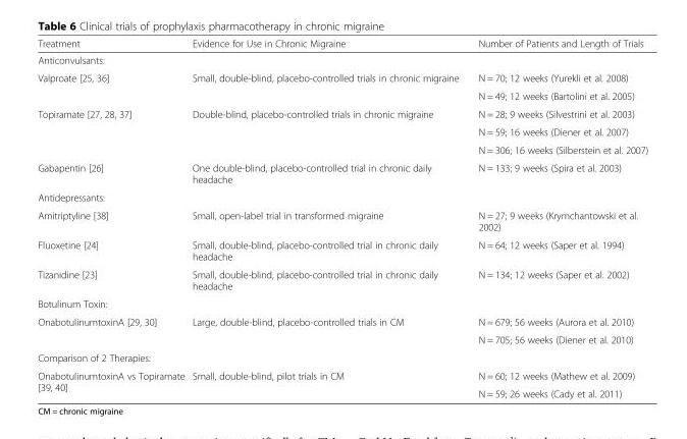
<table><thead><tr><td>Treatment</td><td>Evidence for Use in Chronic Migraine</td><td>Number of Patients and Length of Trials</td></tr></thead><tbody><tr><td colspan="3">Anticonvulsants:</td></tr><tr><td rowspan="2">Valproate [25, 36]</td><td rowspan="2">Small, double-blind, placebo-controlled trials in chronic migraine</td><td>N = 70; 12 weeks (Yurekli et al. 2008)</td></tr><tr><td>N = 49; 12 weeks (Bartolini et al. 2005)</td></tr><tr><td rowspan="3">Topiramate [27, 28, 37]</td><td rowspan="3">Double-blind, placebo-controlled trials in chronic migraine</td><td>N = 28; 9 weeks (Silvestrini et al. 2003)</td></tr><tr><td>N = 59; 16 weeks (Diener et al. 2007)</td></tr><tr><td>N = 306; 16 weeks (Silberstein et al. 2007)</td></tr><tr><td>Gabapentin [26]</td><td>One double-blind, placebo-controlled trial in chronic daily headache</td><td>N = 133; 9 weeks (Spira et al. 2003)</td></tr><tr><td colspan="3">Antidepressants:</td></tr><tr><td>Amitriptyline [38]</td><td>Small, open-label trial in transformed migraine</td><td>N = 27; 9 weeks (Krymchantowski et al. 2002)</td></tr><tr><td>Fluoxetine [24]</td><td>Small, double-blind, placebo-controlled trial in chronic daily headache</td><td>N = 64; 12 weeks (Saper et al. 1994)</td></tr><tr><td>Tizanidine [23]</td><td>Small, double-blind, placebo-controlled trial in chronic daily headache</td><td>N = 134; 12 weeks (Saper et al. 2002)</td></tr><tr><td colspan="3">Botulinum Toxin:</td></tr><tr><td rowspan="2">OnabotulinumtoxinA [29, 30]</td><td rowspan="2">Large, double-blind, placebo-controlled trials in CM</td><td>N = 679; 56 weeks (Aurora et al. 2010)</td></tr><tr><td>N = 705; 56 weeks (Diener et al. 2010)</td></tr><tr><td colspan="3">Comparison of 2 Therapies:</td></tr><tr><td rowspan="2">OnabotulinumtoxinA vs Topiramate [39, 40]</td><td rowspan="2">Small, double-blind, pilot trials in CM</td><td>N = 60; 12 weeks (Mathew et al. 2009)</td></tr><tr><td>N = 59; 26 weeks (Cady et al. 2011)</td></tr></tbody></table>